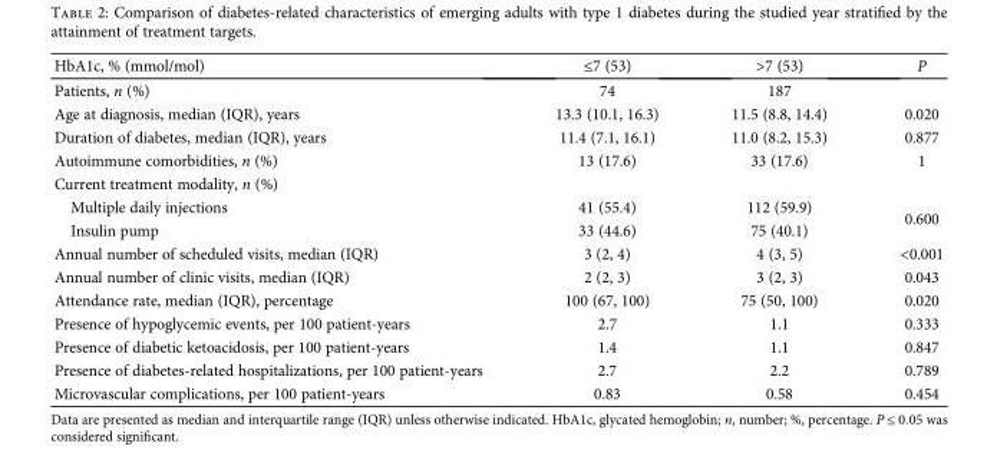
<table><thead><tr><td>HbA1c, % (mmol/mol)</td><td>≤7 (53)</td><td>&gt;7 (53)</td><td>P</td></tr></thead><tbody><tr><td>Patients, n (%)</td><td>74</td><td>187</td><td></td></tr><tr><td>Age at diagnosis, median (IQR), years</td><td>13.3 (10.1, 16.3)</td><td>11.5 (8.8, 14.4)</td><td>0.020</td></tr><tr><td>Duration of diabetes, median (IQR), years</td><td>11.4 (7.1, 16.1)</td><td>11.0 (8.2, 15.3)</td><td>0.877</td></tr><tr><td>Autoimmune comorbidities, n (%)</td><td>13 (17.6)</td><td>33 (17.6)</td><td>1</td></tr><tr><td colspan="4">Current treatment modality, n (%)</td></tr><tr><td>Multiple daily injections</td><td>41 (55.4)</td><td>112 (59.9)</td><td rowspan="2">0.600</td></tr><tr><td>Insulin pump</td><td>33 (44.6)</td><td>75 (40.1)</td></tr><tr><td>Annual number of scheduled visits, median (IQR)</td><td>3 (2, 4)</td><td>4 (3, 5)</td><td>&lt;0.001</td></tr><tr><td>Annual number of clinic visits, median (IQR)</td><td>2 (2, 3)</td><td>3 (2, 3)</td><td>0.043</td></tr><tr><td>Attendance rate, median (IQR), percentage</td><td>100 (67, 100)</td><td>75 (50, 100)</td><td>0.020</td></tr><tr><td>Presence of hypoglycemic events, per 100 patient-years</td><td>2.7</td><td>1.1</td><td>0.333</td></tr><tr><td>Presence of diabetic ketoacidosis, per 100 patient-years</td><td>1.4</td><td>1.1</td><td>0.847</td></tr><tr><td>Presence of diabetes-related hospitalizations, per 100 patient-years</td><td>2.7</td><td>2.2</td><td>0.789</td></tr><tr><td>Microvascular complications, per 100 patient-years</td><td>0.83</td><td>0.58</td><td>0.454</td></tr></tbody></table>